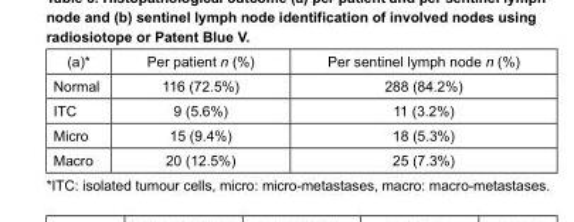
<table><thead><tr><td>(a)*</td><td>Per patient n (%)</td><td>Per sentinel lymph node n (%)</td></tr></thead><tbody><tr><td>Normal</td><td>116 (72.5%)</td><td>288 (84.2%)</td></tr><tr><td>ITC</td><td>9 (5.6%)</td><td>11 (3.2%)</td></tr><tr><td>Micro</td><td>15 (9.4%)</td><td>18 (5.3%)</td></tr><tr><td>Macro</td><td>20 (12.5%)</td><td>25 (7.3%)</td></tr></tbody></table>